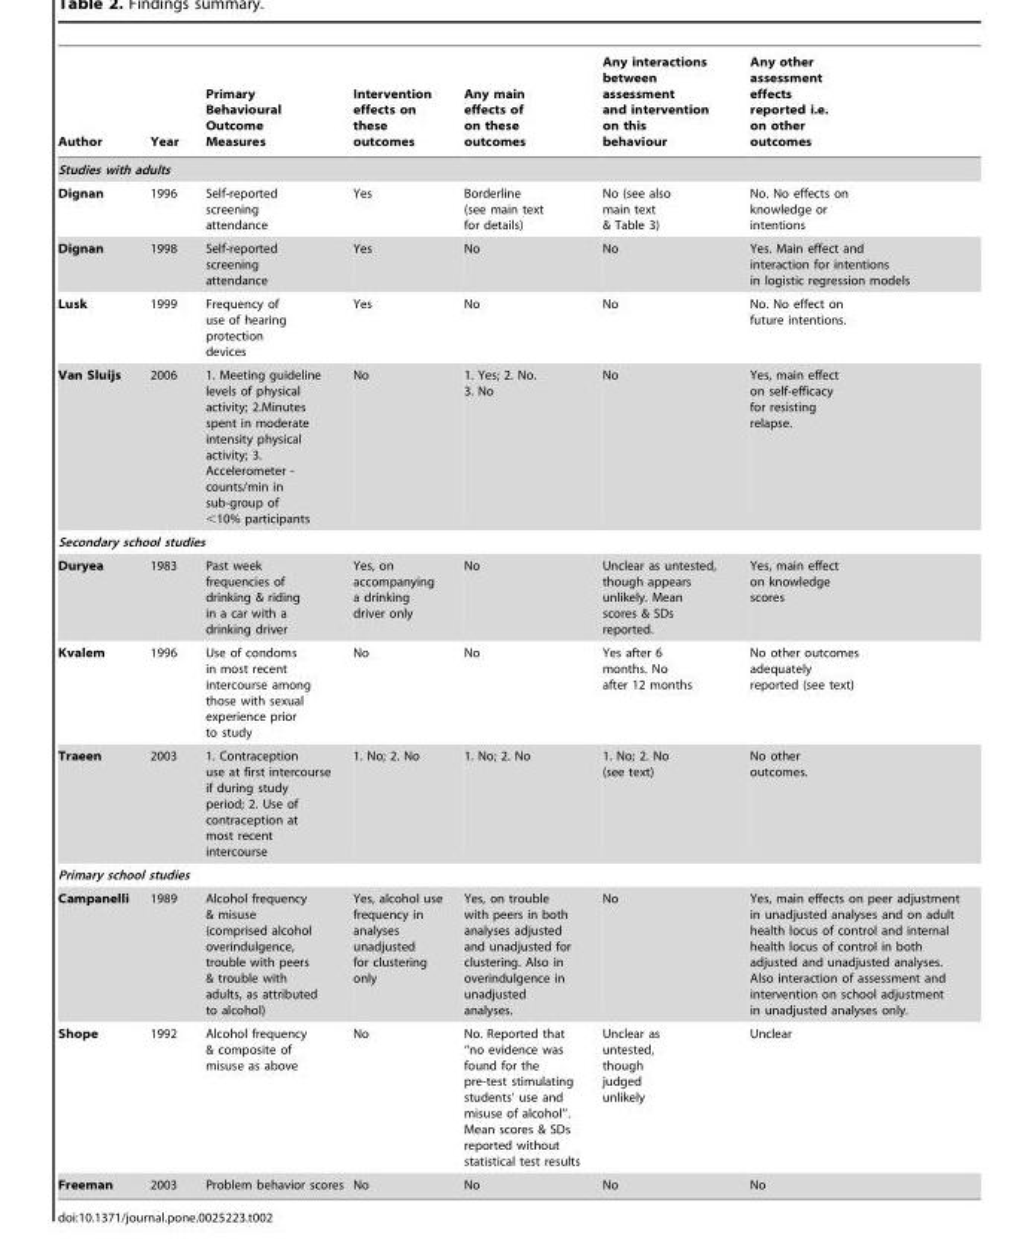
<table><thead><tr><td>Author</td><td>Year</td><td>Primary Behavioural Outcome Measures</td><td>Intervention effects on these outcomes</td><td>Any main effects of on these outcomes</td><td>Any interactions between assessment and intervention on this behaviour</td><td>Any other assessment effects reported i.e. on other outcomes</td></tr></thead><tbody><tr><td colspan="7">Studies with adults</td></tr><tr><td>Dignan</td><td>1996</td><td>Self-reported screening attendance</td><td>Yes</td><td>Borderline (see main text for details)</td><td>No (see also main text &amp; Table 3)</td><td>No. No effects on knowledge or intentions</td></tr><tr><td>Dignan</td><td>1998</td><td>Self-reported screening attendance</td><td>Yes</td><td>No</td><td>No</td><td>Yes. Main effect and interaction for intentions in logistic regression models</td></tr><tr><td>Lusk</td><td>1999</td><td>Frequency of use of hearing protection devices</td><td>Yes</td><td>No</td><td>No</td><td>No. No effect on future intentions.</td></tr><tr><td>Van Sluijs</td><td>2006</td><td>1. Meeting guideline levels of physical activity; 2.Minutes spent in moderate intensity physical activity; 3. Accelerometer - counts/min in sub-group of &lt;10% participants</td><td>No</td><td>1. Yes; 2. No. 3. No</td><td>No</td><td>Yes, main effect on self-efficacy for resisting relapse.</td></tr><tr><td colspan="7">Secondary school studies</td></tr><tr><td>Duryea</td><td>1983</td><td>Past week frequencies of drinking &amp; riding in a car with a drinking driver</td><td>Yes, on accompanying a drinking driver only</td><td>No</td><td>Unclear as untested, though appears unlikely. Mean scores &amp; SDs reported.</td><td>Yes, main effect on knowledge scores</td></tr><tr><td>Kvalem</td><td>1996</td><td>Use of condoms in most recent intercourse among those with sexual experience prior to study</td><td>No</td><td>No</td><td>Yes after 6 months. No after 12 months</td><td>No other outcomes adequately reported (see text)</td></tr><tr><td>Traeen</td><td>2003</td><td>1. Contraception use at first intercourse if during study period; 2. Use of contraception at most recent intercourse</td><td>1. No; 2. No</td><td>1. No; 2. No</td><td>1. No; 2. No (see text)</td><td>No other outcomes.</td></tr><tr><td colspan="7">Primary school studies</td></tr><tr><td>Campanelli</td><td>1989</td><td>Alcohol frequency &amp; misuse (comprised alcohol overindulgence, trouble with peers &amp; trouble with adults, as attributed to alcohol)</td><td>Yes, alcohol use frequency in analyses unadjusted for clustering only</td><td>Yes, on trouble with peers in both analyses adjusted and unadjusted for clustering. Also in overindulgence in unadjusted analyses.</td><td>No</td><td>Yes, main effects on peer adjustment in unadjusted analyses and on adult health locus of control and internal health locus of control in both adjusted and unadjusted analyses. Also interaction of assessment and intervention on school adjustment in unadjusted analyses only.</td></tr><tr><td>Shope</td><td>1992</td><td>Alcohol frequency &amp; composite of misuse as above</td><td>No</td><td>No. Reported that ‘‘no evidence was found for the pre-test stimulating students’ use and misuse of alcohol’’. Mean scores &amp; SDs reported without statistical test results</td><td>Unclear as untested, though judged unlikely</td><td>Unclear</td></tr><tr><td>Freeman</td><td>2003</td><td>Problem behavior scores</td><td>No</td><td>No</td><td>No</td><td>No</td></tr></tbody></table>